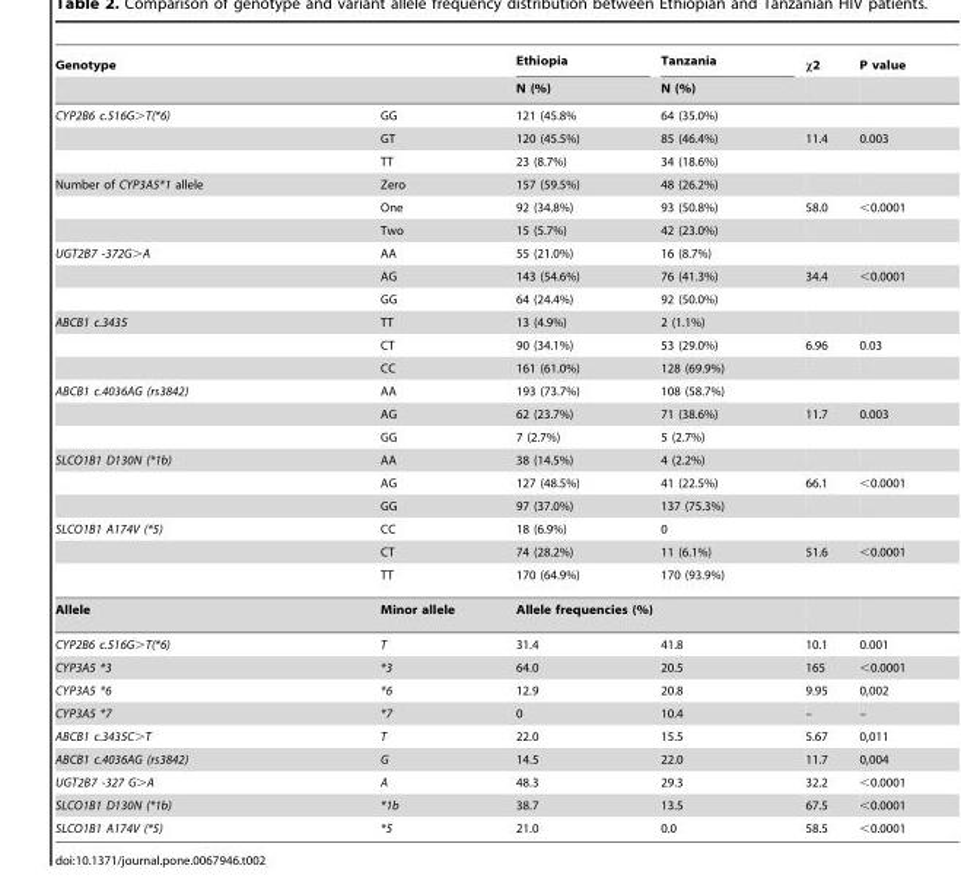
<table><thead><tr><td colspan="2">Genotype</td><td rowspan="2">Ethiopia N (%)</td><td rowspan="2">Tanzania N (%)</td><td rowspan="2">x2</td><td rowspan="2">P value</td></tr><tr><td></td><td></td></tr></thead><tbody><tr><td rowspan="3">CYP2B6 c.516G&gt;T(*6)</td><td>GG</td><td>121 (45.8%</td><td>64 (35.0%)</td><td></td><td></td></tr><tr><td>GT</td><td>120 (45.5%)</td><td>85 (46.4%)</td><td>11.4</td><td>0.003</td></tr><tr><td>TT</td><td>23 (8.7%)</td><td>34 (18.6%)</td><td></td><td></td></tr><tr><td rowspan="3">Number of CYP3A5*1 allele</td><td>Zero</td><td>157 (59.5%)</td><td>48 (26.2%)</td><td></td><td></td></tr><tr><td>One</td><td>92 (34.8%)</td><td>93 (50.8%)</td><td>58.0</td><td>&lt;0.0001</td></tr><tr><td>Two</td><td>15 (5.7%)</td><td>42 (23.0%)</td><td></td><td></td></tr><tr><td rowspan="3">UGT2B7 -372G&gt;A</td><td>AA</td><td>55 (21.0%)</td><td>16 (8.7%)</td><td></td><td></td></tr><tr><td>AG</td><td>143 (54.6%)</td><td>76 (41.3%)</td><td>34.4</td><td>&lt;0.0001</td></tr><tr><td>GG</td><td>64 (24.4%)</td><td>92 (50.0%)</td><td></td><td></td></tr><tr><td rowspan="3">ABCB1 c.3435</td><td>TT</td><td>13 (4.9%)</td><td>2 (1.1%)</td><td></td><td></td></tr><tr><td>CT</td><td>90 (34.1%)</td><td>53 (29.0%)</td><td>6.96</td><td>0.03</td></tr><tr><td>CC</td><td>161 (61.0%)</td><td>128 (69.9%)</td><td></td><td></td></tr><tr><td rowspan="3">ABCB1 c.4036AG (rs3842)</td><td>AA</td><td>193 (73.7%)</td><td>108 (58.7%)</td><td></td><td></td></tr><tr><td>AG</td><td>62 (23.7%)</td><td>71 (38.6%)</td><td>11.7</td><td>0.003</td></tr><tr><td>GG</td><td>7 (2.7%)</td><td>5 (2.7%)</td><td></td><td></td></tr><tr><td rowspan="3">SLCO1B1 D130N (*1b)</td><td>AA</td><td>38 (14.5%)</td><td>4 (2.2%)</td><td></td><td></td></tr><tr><td>AG</td><td>127 (48.5%)</td><td>41 (22.5%)</td><td>66.1</td><td>&lt;0.0001</td></tr><tr><td>GG</td><td>97 (37.0%)</td><td>137 (75.3%)</td><td></td><td></td></tr><tr><td rowspan="3">SLCO1B1 A174V (*5)</td><td>CC</td><td>18 (6.9%)</td><td>0</td><td></td><td></td></tr><tr><td>CT</td><td>74 (28.2%)</td><td>11 (6.1%)</td><td>51.6</td><td>&lt;0.0001</td></tr><tr><td>TT</td><td>170 (64.9%)</td><td>170 (93.9%)</td><td></td><td></td></tr><tr><td>Allele</td><td>Minor allele</td><td colspan="2">Allele frequencies (%)</td><td></td><td></td></tr><tr><td>CYP2B6 c.516G&gt;T(*6)</td><td>T</td><td>31.4</td><td>41.8</td><td>10.1</td><td>0.001</td></tr><tr><td>CYP3A5 *3</td><td>*3</td><td>64.0</td><td>20.5</td><td>165</td><td>&lt;0.0001</td></tr><tr><td>CYP3A5 *6</td><td>*6</td><td>12.9</td><td>20.8</td><td>9.95</td><td>0,002</td></tr><tr><td>CYP3A5 *7</td><td>*7</td><td>0</td><td>10.4</td><td>–</td><td>–</td></tr><tr><td>ABCB1 c.3435C&gt;T</td><td>T</td><td>22.0</td><td>15.5</td><td>5.67</td><td>0,011</td></tr><tr><td>ABCB1 c.4036AG (rs3842)</td><td>G</td><td>14.5</td><td>22.0</td><td>11.7</td><td>0,004</td></tr><tr><td>UGT2B7 -327 G&gt;A</td><td>A</td><td>48.3</td><td>29.3</td><td>32.2</td><td>&lt;0.0001</td></tr><tr><td>SLCO1B1 D130N (*1b)</td><td>*1b</td><td>38.7</td><td>13.5</td><td>67.5</td><td>&lt;0.0001</td></tr><tr><td>SLCO1B1 A174V (*5)</td><td>*5</td><td>21.0</td><td>0.0</td><td>58.5</td><td>&lt;0.0001</td></tr></tbody></table>